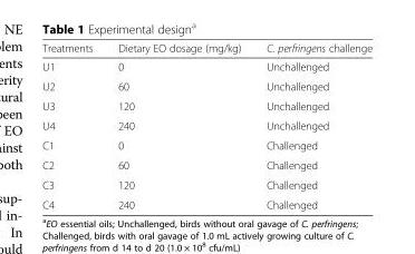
<table><thead><tr><td>Treatments</td><td>Dietary EO dosage (mg/kg)</td><td>C. perfringens challenge</td></tr></thead><tbody><tr><td>U1</td><td>0</td><td>Unchallenged</td></tr><tr><td>U2</td><td>60</td><td>Unchallenged</td></tr><tr><td>U3</td><td>120</td><td>Unchallenged</td></tr><tr><td>U4</td><td>240</td><td>Unchallenged</td></tr><tr><td>C1</td><td>0</td><td>Challenged</td></tr><tr><td>C2</td><td>60</td><td>Challenged</td></tr><tr><td>C3</td><td>120</td><td>Challenged</td></tr><tr><td>C4</td><td>240</td><td>Challenged</td></tr></tbody></table>